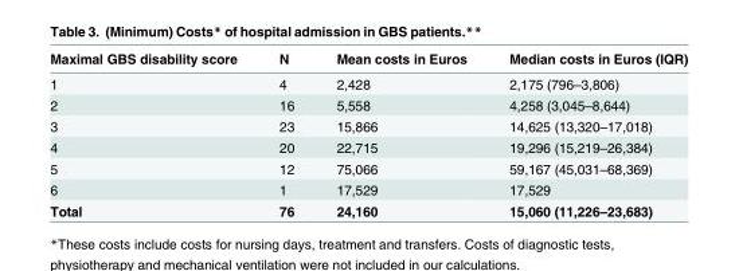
<table><thead><tr><td>Maximal GBS disability score</td><td>N</td><td>Mean costs in Euros</td><td>Median costs in Euros (IQR)</td></tr></thead><tbody><tr><td>1</td><td>4</td><td>2,428</td><td>2,175 (796–3,806)</td></tr><tr><td>2</td><td>16</td><td>5,558</td><td>4,258 (3,045–8,644)</td></tr><tr><td>3</td><td>23</td><td>15,866</td><td>14,625 (13,320–17,018)</td></tr><tr><td>4</td><td>20</td><td>22,715</td><td>19,296 (15,219–26,384)</td></tr><tr><td>5</td><td>12</td><td>75,066</td><td>59,167 (45,031–68,369)</td></tr><tr><td>6</td><td>1</td><td>17,529</td><td>17,529</td></tr><tr><td>Total</td><td>76</td><td>24,160</td><td>15,060 (11,226–23,683)</td></tr></tbody></table>